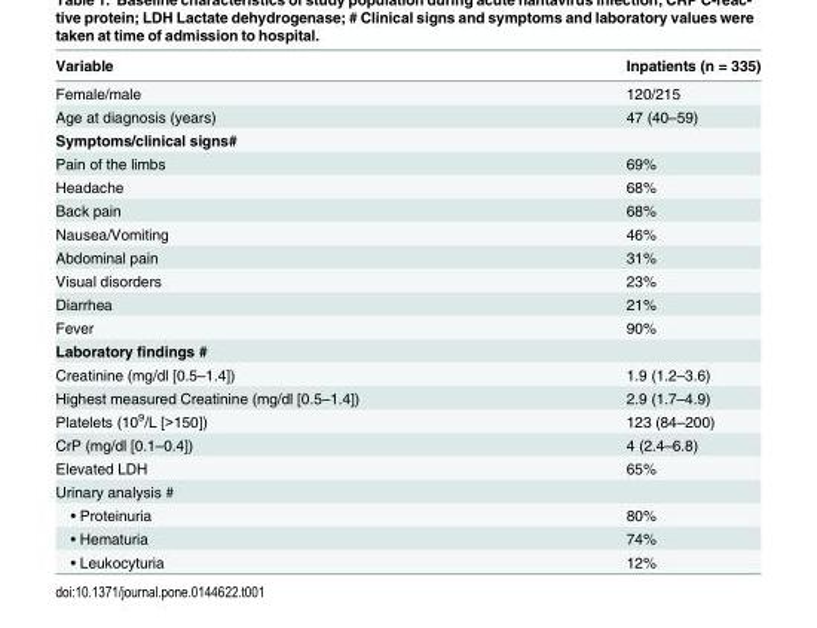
<table><thead><tr><td>Variable</td><td>Inpatients (n = 335)</td></tr></thead><tbody><tr><td>Female/male</td><td>120/215</td></tr><tr><td>Age at diagnosis (years)</td><td>47 (40–59)</td></tr><tr><td colspan="2">Symptoms/clinical signs#</td></tr><tr><td>Pain of the limbs</td><td>69%</td></tr><tr><td>Headache</td><td>68%</td></tr><tr><td>Back pain</td><td>68%</td></tr><tr><td>Nausea/Vomiting</td><td>46%</td></tr><tr><td>Abdominal pain</td><td>31%</td></tr><tr><td>Visual disorders</td><td>23%</td></tr><tr><td>Diarrhea</td><td>21%</td></tr><tr><td>Fever</td><td>90%</td></tr><tr><td colspan="2">Laboratory findings #</td></tr><tr><td>Creatinine (mg/dl [0.5–1.4])</td><td>1.9 (1.2–3.6)</td></tr><tr><td>Highest measured Creatinine (mg/dl [0.5–1.4])</td><td>2.9 (1.7–4.9)</td></tr><tr><td>Platelets (10<sup>9</sup>/L [&gt;150])</td><td>123 (84–200)</td></tr><tr><td>CrP (mg/dl [0.1–0.4])</td><td>4 (2.4–6.8)</td></tr><tr><td>Elevated LDH</td><td>65%</td></tr><tr><td colspan="2">Urinary analysis #</td></tr><tr><td>• Proteinuria</td><td>80%</td></tr><tr><td>• Hematuria</td><td>74%</td></tr><tr><td>• Leukocyturia</td><td>12%</td></tr></tbody></table>